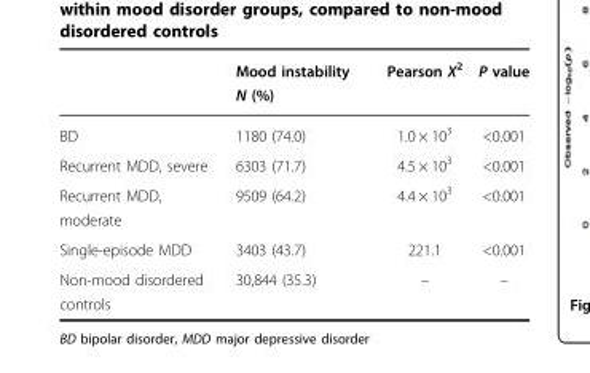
<table><thead><tr><td></td><td>Mood instability N (%)</td><td>Pearson Χ<sup>2</sup></td><td>P value</td></tr></thead><tbody><tr><td>BD</td><td>1180 (74.0)</td><td>1.0 × 10<sup>3</sup></td><td>&lt;0.001</td></tr><tr><td>Recurrent MDD, severe</td><td>6303 (71.7)</td><td>4.5 × 10<sup>3</sup></td><td>&lt;0.001</td></tr><tr><td>Recurrent MDD, moderate</td><td>9509 (64.2)</td><td>4.4 × 10<sup>3</sup></td><td>&lt;0.001</td></tr><tr><td>Single-episode MDD</td><td>3403 (43.7)</td><td>221.1</td><td>&lt;0.001</td></tr><tr><td>Non-mood disordered controls</td><td>30,844 (35.3)</td><td>–</td><td>–</td></tr></tbody></table>